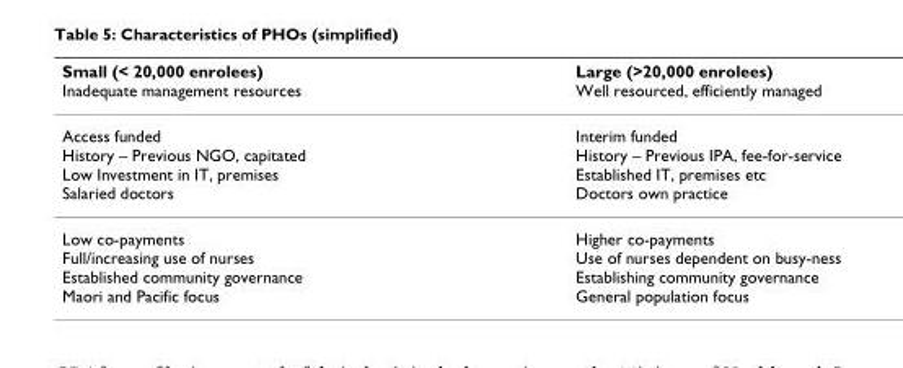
<table><thead><tr><td>Small (&lt; 20,000 enrolees) Inadequate management resources</td><td>Large (&gt;20,000 enrolees) Well resourced, efficiently managed</td></tr></thead><tbody><tr><td>Access funded History – Previous NGO, capitated Low Investment in IT, premises Salaried doctors</td><td>Interim funded History – Previous IPA, fee-for-service Established IT, premises etc Doctors own practice</td></tr><tr><td>Low co-payments Full/increasing use of nurses Established community governance Maori and Pacific focus</td><td>Higher co-payments Use of nurses dependent on busy-ness Establishing community governance General population focus</td></tr></tbody></table>